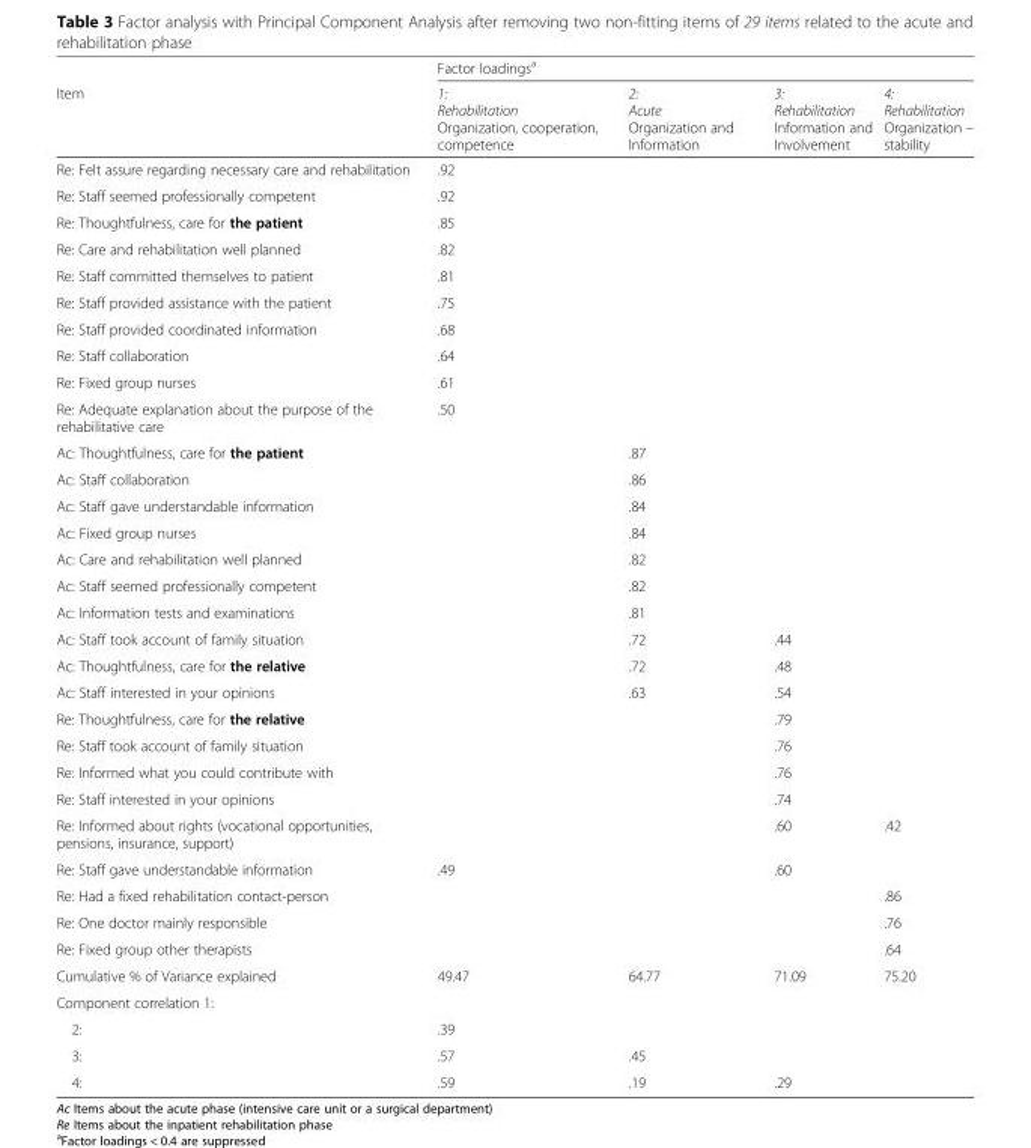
<table><thead><tr><td rowspan="2">Item</td><td colspan="4">Factor loadings<sup>a</sup></td></tr><tr><td>1: Rehabilitation Organization, cooperation, competence</td><td>2: Acute Organization and Information</td><td>3: Rehabilitation Information and Involvement</td><td>4: Rehabilitation Organization – stability</td></tr></thead><tbody><tr><td>Re: Felt assure regarding necessary care and rehabilitation</td><td>.92</td><td></td><td></td><td></td></tr><tr><td>Re: Staff seemed professionally competent</td><td>.92</td><td></td><td></td><td></td></tr><tr><td>Re: Thoughtfulness, care for the patient</td><td>.85</td><td></td><td></td><td></td></tr><tr><td>Re: Care and rehabilitation well planned</td><td>.82</td><td></td><td></td><td></td></tr><tr><td>Re: Staff committed themselves to patient</td><td>.81</td><td></td><td></td><td></td></tr><tr><td>Re: Staff provided assistance with the patient</td><td>.75</td><td></td><td></td><td></td></tr><tr><td>Re: Staff provided coordinated information</td><td>.68</td><td></td><td></td><td></td></tr><tr><td>Re: Staff collaboration</td><td>.64</td><td></td><td></td><td></td></tr><tr><td>Re: Fixed group nurses</td><td>.61</td><td></td><td></td><td></td></tr><tr><td>Re: Adequate explanation about the purpose of the rehabilitative care</td><td>.50</td><td></td><td></td><td></td></tr><tr><td>Ac: Thoughtfulness, care for the patient</td><td></td><td>.87</td><td></td><td></td></tr><tr><td>Ac: Staff collaboration</td><td></td><td>.86</td><td></td><td></td></tr><tr><td>Ac: Staff gave understandable information</td><td></td><td>.84</td><td></td><td></td></tr><tr><td>Ac: Fixed group nurses</td><td></td><td>.84</td><td></td><td></td></tr><tr><td>Ac: Care and rehabilitation well planned</td><td></td><td>.82</td><td></td><td></td></tr><tr><td>Ac: Staff seemed professionally competent</td><td></td><td>.82</td><td></td><td></td></tr><tr><td>Ac: Information tests and examinations</td><td></td><td>.81</td><td></td><td></td></tr><tr><td>Ac: Staff took account of family situation</td><td></td><td>.72</td><td>.44</td><td></td></tr><tr><td>Ac: Thoughtfulness, care for the relative</td><td></td><td>.72</td><td>.48</td><td></td></tr><tr><td>Ac: Staff interested in your opinions</td><td></td><td>.63</td><td>.54</td><td></td></tr><tr><td>Re: Thoughtfulness, care for the relative</td><td></td><td></td><td>.79</td><td></td></tr><tr><td>Re: Staff took account of family situation</td><td></td><td></td><td>.76</td><td></td></tr><tr><td>Re: Informed what you could contribute with</td><td></td><td></td><td>.76</td><td></td></tr><tr><td>Re: Staff interested in your opinions</td><td></td><td></td><td>.74</td><td></td></tr><tr><td>Re: Informed about rights (vocational opportunities, pensions, insurance, support)</td><td></td><td></td><td>.60</td><td>.42</td></tr><tr><td>Re: Staff gave understandable information</td><td>.49</td><td></td><td>.60</td><td></td></tr><tr><td>Re: Had a fixed rehabilitation contact-person</td><td></td><td></td><td></td><td>.86</td></tr><tr><td>Re: One doctor mainly responsible</td><td></td><td></td><td></td><td>.76</td></tr><tr><td>Re: Fixed group other therapists</td><td></td><td></td><td></td><td>.64</td></tr><tr><td>Cumulative % of Variance explained</td><td>49.47</td><td>64.77</td><td>71.09</td><td>75.20</td></tr><tr><td colspan="5">Component correlation 1:</td></tr><tr><td>2:</td><td>.39</td><td></td><td></td><td></td></tr><tr><td>3:</td><td>.57</td><td>.45</td><td></td><td></td></tr><tr><td>4:</td><td>.59</td><td>.19</td><td>.29</td><td></td></tr></tbody></table>